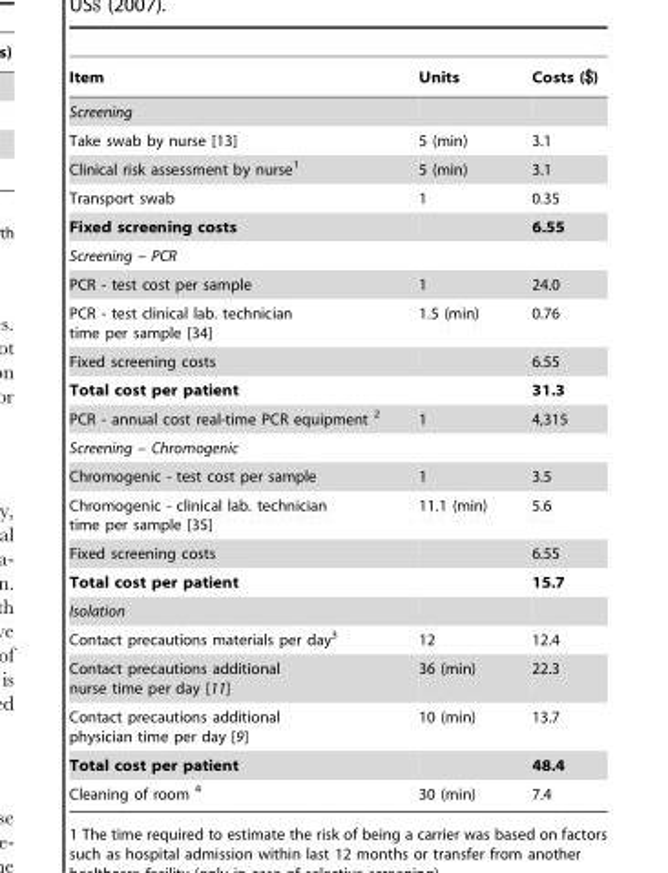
<table><thead><tr><td>Item</td><td>Units</td><td>Costs ($)</td></tr></thead><tbody><tr><td colspan="3">Screening</td></tr><tr><td>Take swab by nurse [13]</td><td>5 (min)</td><td>3.1</td></tr><tr><td>Clinical risk assessment by nurse<sup>1</sup></td><td>5 (min)</td><td>3.1</td></tr><tr><td>Transport swab</td><td>1</td><td>0.35</td></tr><tr><td>Fixed screening costs</td><td></td><td>6.55</td></tr><tr><td colspan="3">Screening – PCR</td></tr><tr><td>PCR - test cost per sample</td><td>1</td><td>24.0</td></tr><tr><td>PCR - test clinical lab. technician time per sample [34]</td><td>1.5 (min)</td><td>0.76</td></tr><tr><td>Fixed screening costs</td><td></td><td>6.55</td></tr><tr><td>Total cost per patient</td><td></td><td>31.3</td></tr><tr><td>PCR - annual cost real-time PCR equipment 2</td><td>1</td><td>4,315</td></tr><tr><td colspan="3">Screening – Chromogenic</td></tr><tr><td>Chromogenic - test cost per sample</td><td>1</td><td>3.5</td></tr><tr><td>Chromogenic - clinical lab. technician time per sample [35]</td><td>11.1 (min)</td><td>5.6</td></tr><tr><td>Fixed screening costs</td><td></td><td>6.55</td></tr><tr><td>Total cost per patient</td><td></td><td>15.7</td></tr><tr><td colspan="3">Isolation</td></tr><tr><td>Contact precautions materials per day<sup>3</sup></td><td>12</td><td>12.4</td></tr><tr><td>Contact precautions additional nurse time per day [11]</td><td>36 (min)</td><td>22.3</td></tr><tr><td>Contact precautions additional physician time per day [9]</td><td>10 (min)</td><td>13.7</td></tr><tr><td>Total cost per patient</td><td></td><td>48.4</td></tr><tr><td>Cleaning of room 4</td><td>30 (min)</td><td>7.4</td></tr></tbody></table>